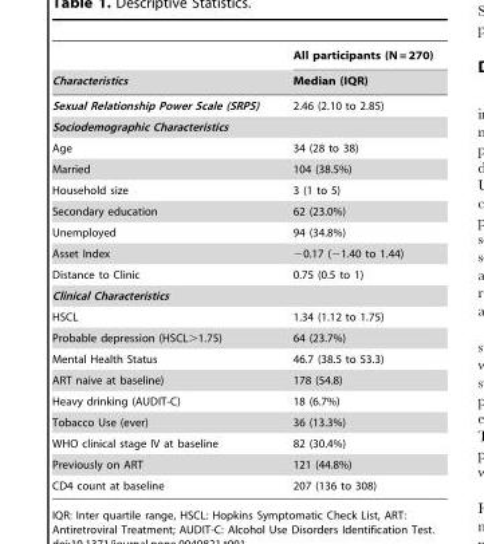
<table><thead><tr><td rowspan="2">Characteristics</td><td rowspan="2">All participants (N = 270) Median (IQR)</td></tr><tr></tr></thead><tbody><tr><td>Sexual Relationship Power Scale (SRPS)</td><td>2.46 (2.10 to 2.85)</td></tr><tr><td colspan="2">Sociodemographic Characteristics</td></tr><tr><td>Age</td><td>34 (28 to 38)</td></tr><tr><td>Married</td><td>104 (38.5%)</td></tr><tr><td>Household size</td><td>3 (1 to 5)</td></tr><tr><td>Secondary education</td><td>62 (23.0%)</td></tr><tr><td>Unemployed</td><td>94 (34.8%)</td></tr><tr><td>Asset Index</td><td>−0.17 (−1.40 to 1.44)</td></tr><tr><td>Distance to Clinic</td><td>0.75 (0.5 to 1)</td></tr><tr><td colspan="2">Clinical Characteristics</td></tr><tr><td>HSCL</td><td>1.34 (1.12 to 1.75)</td></tr><tr><td>Probable depression (HSCL&gt;1.75)</td><td>64 (23.7%)</td></tr><tr><td>Mental Health Status</td><td>46.7 (38.5 to 53.3)</td></tr><tr><td>ART naive at baseline)</td><td>178 (54.8)</td></tr><tr><td>Heavy drinking (AUDIT-C)</td><td>18 (6.7%)</td></tr><tr><td>Tobacco Use (ever)</td><td>36 (13.3%)</td></tr><tr><td>WHO clinical stage IV at baseline</td><td>82 (30.4%)</td></tr><tr><td>Previously on ART</td><td>121 (44.8%)</td></tr><tr><td>CD4 count at baseline</td><td>207 (136 to 308)</td></tr></tbody></table>